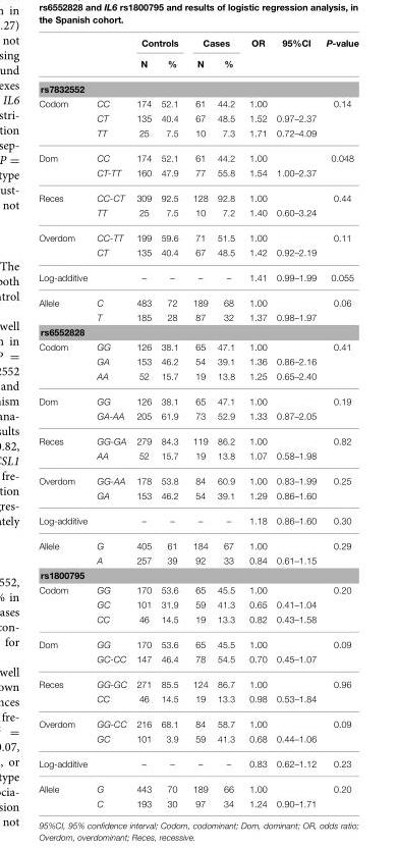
<table><thead><tr><td rowspan="2"></td><td rowspan="2"></td><td colspan="2">Controls</td><td colspan="2">Cases</td><td rowspan="2">OR</td><td rowspan="2">95%CI</td><td rowspan="2">P-value</td></tr><tr><td>N</td><td>%</td><td>N</td><td>%</td></tr></thead><tbody><tr><td colspan="9">rs7832552</td></tr><tr><td rowspan="3">Codom</td><td>CC</td><td>174</td><td>52.1</td><td>61</td><td>44.2</td><td>1.00</td><td></td><td>0.14</td></tr><tr><td>CT</td><td>135</td><td>40.4</td><td>67</td><td>48.5</td><td>1.52</td><td>0.97–2.37</td><td></td></tr><tr><td>TT</td><td>25</td><td>7.5</td><td>10</td><td>7.3</td><td>1.71</td><td>0.72–4.09</td><td></td></tr><tr><td rowspan="2">Dom</td><td>CC</td><td>174</td><td>52.1</td><td>61</td><td>44.2</td><td>1.00</td><td></td><td>0.048</td></tr><tr><td>CT-TT</td><td>160</td><td>47.9</td><td>77</td><td>55.8</td><td>1.54</td><td>1.00–2.37</td><td></td></tr><tr><td rowspan="2">Reces</td><td>CC-CT</td><td>309</td><td>92.5</td><td>128</td><td>92.8</td><td>1.00</td><td></td><td>0.44</td></tr><tr><td>TT</td><td>25</td><td>7.5</td><td>10</td><td>7.2</td><td>1.40</td><td>0.60–3.24</td><td></td></tr><tr><td rowspan="2">Overdom</td><td>CC-TT</td><td>199</td><td>59.6</td><td>71</td><td>51.5</td><td>1.00</td><td></td><td>0.11</td></tr><tr><td>CT</td><td>135</td><td>40.4</td><td>67</td><td>48.5</td><td>1.42</td><td>0.92–2.19</td><td></td></tr><tr><td>Log-additive</td><td></td><td>–</td><td>–</td><td>–</td><td>–</td><td>1.41</td><td>0.99–1.99</td><td>0.055</td></tr><tr><td rowspan="2">Allele</td><td>C</td><td>483</td><td>72</td><td>189</td><td>68</td><td>1.00</td><td></td><td>0.06</td></tr><tr><td>T</td><td>185</td><td>28</td><td>87</td><td>32</td><td>1.37</td><td>0.98–1.97</td><td></td></tr><tr><td colspan="9">rs6552828</td></tr><tr><td rowspan="3">Codom</td><td>GG</td><td>126</td><td>38.1</td><td>65</td><td>47.1</td><td>1.00</td><td></td><td>0.41</td></tr><tr><td>GA</td><td>153</td><td>46.2</td><td>54</td><td>39.1</td><td>1.36</td><td>0.86–2.16</td><td></td></tr><tr><td>AA</td><td>52</td><td>15.7</td><td>19</td><td>13.8</td><td>1.25</td><td>0.65–2.40</td><td></td></tr><tr><td rowspan="2">Dom</td><td>GG</td><td>126</td><td>38.1</td><td>65</td><td>47.1</td><td>1.00</td><td></td><td>0.19</td></tr><tr><td>GA-AA</td><td>205</td><td>61.9</td><td>73</td><td>52.9</td><td>1.33</td><td>0.87–2.05</td><td></td></tr><tr><td rowspan="2">Reces</td><td>GG-GA</td><td>279</td><td>84.3</td><td>119</td><td>86.2</td><td>1.00</td><td></td><td>0.82</td></tr><tr><td>AA</td><td>52</td><td>15.7</td><td>19</td><td>13.8</td><td>1.07</td><td>0.58–1.98</td><td></td></tr><tr><td rowspan="2">Overdom</td><td>GG-AA</td><td>178</td><td>53.8</td><td>84</td><td>60.9</td><td>1.00</td><td>0.83–1.99</td><td>0.25</td></tr><tr><td>GA</td><td>153</td><td>46.2</td><td>54</td><td>39.1</td><td>1.29</td><td>0.86–1.60</td><td></td></tr><tr><td>Log-additive</td><td></td><td>–</td><td>–</td><td>–</td><td>–</td><td>1.18</td><td>0.86–1.60</td><td>0.30</td></tr><tr><td rowspan="2">Allele</td><td>G</td><td>405</td><td>61</td><td>184</td><td>67</td><td>1.00</td><td></td><td>0.29</td></tr><tr><td>A</td><td>257</td><td>39</td><td>92</td><td>33</td><td>0.84</td><td>0.61–1.15</td><td></td></tr><tr><td colspan="9">rs1800795</td></tr><tr><td rowspan="3">Codom</td><td>GG</td><td>170</td><td>53.6</td><td>65</td><td>45.5</td><td>1.00</td><td></td><td>0.20</td></tr><tr><td>GC</td><td>101</td><td>31.9</td><td>59</td><td>41.3</td><td>0.65</td><td>0.41–1.04</td><td></td></tr><tr><td>CC</td><td>46</td><td>14.5</td><td>19</td><td>13.3</td><td>0.82</td><td>0.43–1.58</td><td></td></tr><tr><td rowspan="2">Dom</td><td>GG</td><td>170</td><td>53.6</td><td>65</td><td>45.5</td><td>1.00</td><td></td><td>0.09</td></tr><tr><td>GC-CC</td><td>147</td><td>46.4</td><td>78</td><td>54.5</td><td>0.70</td><td>0.45–1.07</td><td></td></tr><tr><td rowspan="2">Reces</td><td>GG-GC</td><td>271</td><td>85.5</td><td>124</td><td>86.7</td><td>1.00</td><td></td><td>0.96</td></tr><tr><td>CC</td><td>46</td><td>14.5</td><td>19</td><td>13.3</td><td>0.98</td><td>0.53–1.84</td><td></td></tr><tr><td rowspan="2">Overdom</td><td>GG-CC</td><td>216</td><td>68.1</td><td>84</td><td>58.7</td><td>1.00</td><td></td><td>0.09</td></tr><tr><td>GC</td><td>101</td><td>3.9</td><td>59</td><td>41.3</td><td>0.68</td><td>0.44–1.06</td><td></td></tr><tr><td>Log-additive</td><td></td><td>–</td><td>–</td><td>–</td><td>–</td><td>0.83</td><td>0.62–1.12</td><td>0.23</td></tr><tr><td rowspan="2">Allele</td><td>G</td><td>443</td><td>70</td><td>189</td><td>66</td><td>1.00</td><td></td><td>0.20</td></tr><tr><td>C</td><td>193</td><td>30</td><td>97</td><td>34</td><td>1.24</td><td>0.90–1.71</td><td></td></tr></tbody></table>